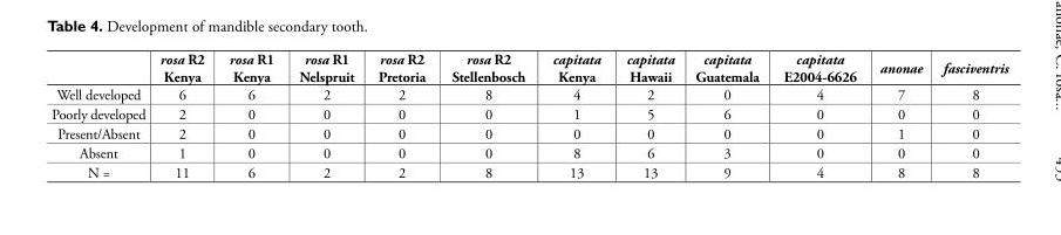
<table><thead><tr><td></td><td>rosa R2 Kenya</td><td>rosa R1 Kenya</td><td>rosa R1 Nelspruit</td><td>rosa R2 Pretoria</td><td>rosa R2 Stellenbosch</td><td>capitata Kenya</td><td>capitata Hawaii</td><td>capitata Guatemala</td><td>capitata E2004-6626</td><td>anonae</td><td>fasciventris</td></tr></thead><tbody><tr><td>Well developed</td><td>6</td><td>6</td><td>2</td><td>2</td><td>8</td><td>4</td><td>2</td><td>0</td><td>4</td><td>7</td><td>8</td></tr><tr><td>Poorly developed</td><td>2</td><td>0</td><td>0</td><td>0</td><td>0</td><td>1</td><td>5</td><td>6</td><td>0</td><td>0</td><td>0</td></tr><tr><td>Present/Absent</td><td>2</td><td>0</td><td>0</td><td>0</td><td>0</td><td>0</td><td>0</td><td>0</td><td>0</td><td>1</td><td>0</td></tr><tr><td>Absent</td><td>1</td><td>0</td><td>0</td><td>0</td><td>0</td><td>8</td><td>6</td><td>3</td><td>0</td><td>0</td><td>0</td></tr><tr><td>N =</td><td>11</td><td>6</td><td>2</td><td>2</td><td>8</td><td>13</td><td>13</td><td>9</td><td>4</td><td>8</td><td>8</td></tr></tbody></table>